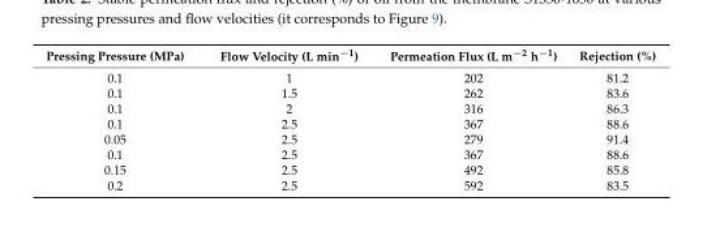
<table><thead><tr><td>Pressing Pressure (MPa)</td><td>Flow Velocity (L min<sup>−1</sup>)</td><td>Permeation Flux (L m<sup>−2</sup> h<sup>−1</sup>)</td><td>Rejection (%)</td></tr></thead><tbody><tr><td>0.1</td><td>1</td><td>202</td><td>81.2</td></tr><tr><td>0.1</td><td>1.5</td><td>262</td><td>83.6</td></tr><tr><td>0.1</td><td>2</td><td>316</td><td>86.3</td></tr><tr><td>0.1</td><td>2.5</td><td>367</td><td>88.6</td></tr><tr><td>0.05</td><td>2.5</td><td>279</td><td>91.4</td></tr><tr><td>0.1</td><td>2.5</td><td>367</td><td>88.6</td></tr><tr><td>0.15</td><td>2.5</td><td>492</td><td>85.8</td></tr><tr><td>0.2</td><td>2.5</td><td>592</td><td>83.5</td></tr></tbody></table>